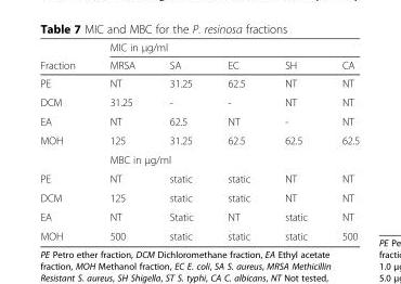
<table><thead><tr><td rowspan="2">Fraction</td><td colspan="5">MIC in μg/ml</td></tr><tr><td>MRSA</td><td>SA</td><td>EC</td><td>SH</td><td>CA</td></tr></thead><tbody><tr><td>PE</td><td>NT</td><td>31.25</td><td>62.5</td><td>NT</td><td>NT</td></tr><tr><td>DCM</td><td>31.25</td><td>-</td><td>-</td><td>NT</td><td>NT</td></tr><tr><td>EA</td><td>NT</td><td>62.5</td><td>NT</td><td>-</td><td>NT</td></tr><tr><td rowspan="2">MOH</td><td>125</td><td>31.25</td><td>62.5</td><td>62.5</td><td>62.5</td></tr><tr><td colspan="5">MBC in μg/ml</td></tr><tr><td>PE</td><td>NT</td><td>static</td><td>static</td><td>NT</td><td>NT</td></tr><tr><td>DCM</td><td>125</td><td>static</td><td>static</td><td>NT</td><td>NT</td></tr><tr><td>EA</td><td>NT</td><td>Static</td><td>NT</td><td>static</td><td>NT</td></tr><tr><td>MOH</td><td>500</td><td>static</td><td>static</td><td>static</td><td>500</td></tr></tbody></table>